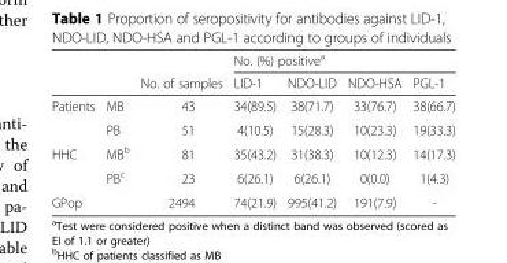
<table><thead><tr><td rowspan="2"></td><td rowspan="2"></td><td rowspan="2">No. of samples</td><td colspan="4">No. (%) positive<sup>a</sup></td></tr><tr><td>LID-1</td><td>NDO-LID</td><td>NDO-HSA</td><td>PGL-1</td></tr></thead><tbody><tr><td rowspan="2">Patients</td><td>MB</td><td>43</td><td>34(89.5)</td><td>38(71.7)</td><td>33(76.7)</td><td>38(66.7)</td></tr><tr><td>PB</td><td>51</td><td>4(10.5)</td><td>15(28.3)</td><td>10(23.3)</td><td>19(33.3)</td></tr><tr><td rowspan="2">HHC</td><td>MB<sup>b</sup></td><td>81</td><td>35(43.2)</td><td>31(38.3)</td><td>10(12.3)</td><td>14(17.3)</td></tr><tr><td>PB<sup>c</sup></td><td>23</td><td>6(26.1)</td><td>6(26.1)</td><td>0(0.0)</td><td>1(4.3)</td></tr><tr><td>GPop</td><td></td><td>2494</td><td>74(21.9)</td><td>995(41.2)</td><td>191(7.9)</td><td>-</td></tr></tbody></table>